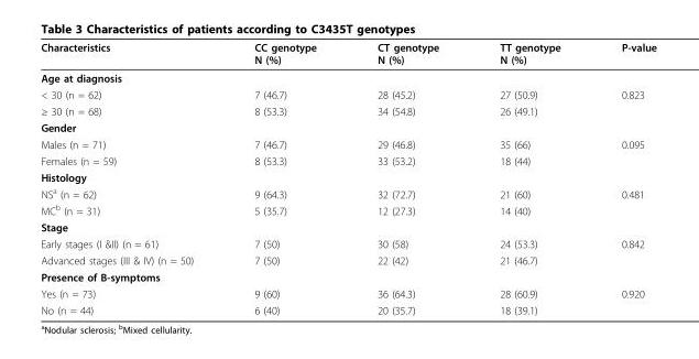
<table><thead><tr><td>Characteristics</td><td>CC genotype N (%)</td><td>CT genotype N (%)</td><td>TT genotype N (%)</td><td>P-value</td></tr></thead><tbody><tr><td colspan="5">Age at diagnosis</td></tr><tr><td>&lt; 30 (n = 62)</td><td>7 (46.7)</td><td>28 (45.2)</td><td>27 (50.9)</td><td>0.823</td></tr><tr><td>≥ 30 (n = 68)</td><td>8 (53.3)</td><td>34 (54.8)</td><td>26 (49.1)</td><td></td></tr><tr><td colspan="5">Gender</td></tr><tr><td>Males (n = 71)</td><td>7 (46.7)</td><td>29 (46.8)</td><td>35 (66)</td><td>0.095</td></tr><tr><td>Females (n = 59)</td><td>8 (53.3)</td><td>33 (53.2)</td><td>18 (44)</td><td></td></tr><tr><td colspan="5">Histology</td></tr><tr><td>NS<sup>a</sup> (n = 62)</td><td>9 (64.3)</td><td>32 (72.7)</td><td>21 (60)</td><td>0.481</td></tr><tr><td>MC<sup>b</sup> (n = 31)</td><td>5 (35.7)</td><td>12 (27.3)</td><td>14 (40)</td><td></td></tr><tr><td colspan="5">Stage</td></tr><tr><td>Early stages (I &amp;II) (n = 61)</td><td>7 (50)</td><td>30 (58)</td><td>24 (53.3)</td><td>0.842</td></tr><tr><td>Advanced stages (III &amp; IV) (n = 50)</td><td>7 (50)</td><td>22 (42)</td><td>21 (46.7)</td><td></td></tr><tr><td colspan="5">Presence of B-symptoms</td></tr><tr><td>Yes (n = 73)</td><td>9 (60)</td><td>36 (64.3)</td><td>28 (60.9)</td><td>0.920</td></tr><tr><td>No (n = 44)</td><td>6 (40)</td><td>20 (35.7)</td><td>18 (39.1)</td><td></td></tr></tbody></table>